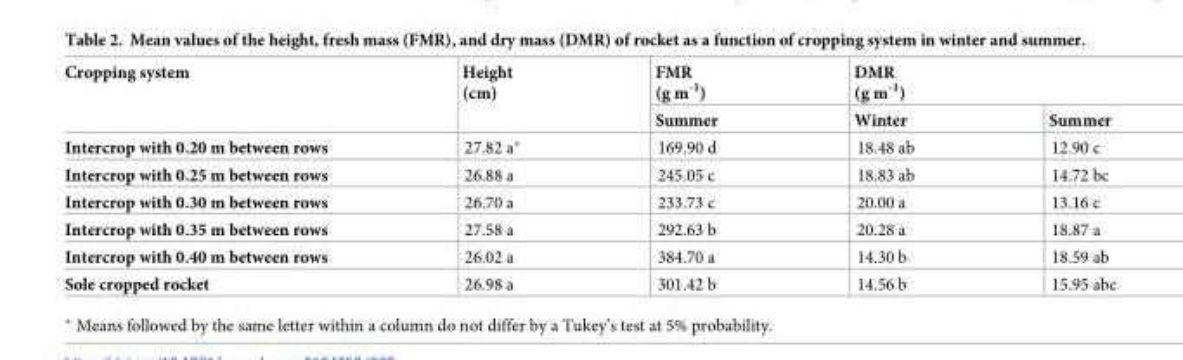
<table><thead><tr><td rowspan="2">Cropping system</td><td rowspan="2">Height (cm)</td><td rowspan="2">FMR (g m<sup>-1</sup>) Summer</td><td colspan="2">DMR (g m<sup>-1</sup>)</td></tr><tr><td>Winter</td><td>Summer</td></tr></thead><tbody><tr><td>Intercrop with 0.20 m between rows</td><td>27.82 a*</td><td>169.90 d</td><td>18.48 ab</td><td>12.90 c</td></tr><tr><td>Intercrop with 0.25 m between rows</td><td>26.88 a</td><td>245.05 c</td><td>18.83 ab</td><td>14.72 bc</td></tr><tr><td>Intercrop with 0.30 m between rows</td><td>26.70 a</td><td>233.73 c</td><td>20.00 a</td><td>13.16 c</td></tr><tr><td>Intercrop with 0.35 m between rows</td><td>27.58 a</td><td>292.63 b</td><td>20.28 a</td><td>18.87 a</td></tr><tr><td>Intercrop with 0.40 m between rows</td><td>26.02 a</td><td>384.70 a</td><td>14.30 b</td><td>18.59 ab</td></tr><tr><td>Sole cropped rocket</td><td>26.98 a</td><td>301.42 b</td><td>14.56 b</td><td>15.95 abc</td></tr></tbody></table>